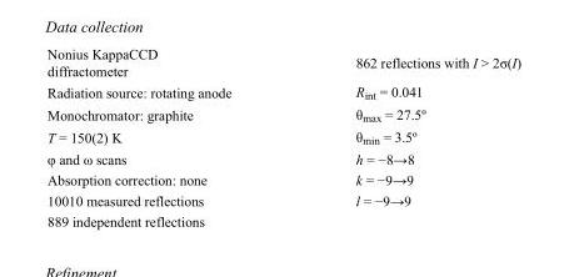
<table><tbody><tr><td>Nonius KappaCCD diffractometer</td><td>862 reflections with I &gt; 2σ(I)</td></tr><tr><td>Radiation source: rotating anode</td><td>R<sub>int</sub> = 0.041</td></tr><tr><td>Monochromator: graphite</td><td>θ<sub>max</sub> = 27.5º</td></tr><tr><td>T = 150(2) K</td><td>θ<sub>min</sub> = 3.5º</td></tr><tr><td>φ and ω scans</td><td>h = −8→8</td></tr><tr><td>Absorption correction: none</td><td>k = −9→9</td></tr><tr><td>10010 measured reflections</td><td>l = −9→9</td></tr><tr><td>889 independent reflections</td><td></td></tr></tbody></table>